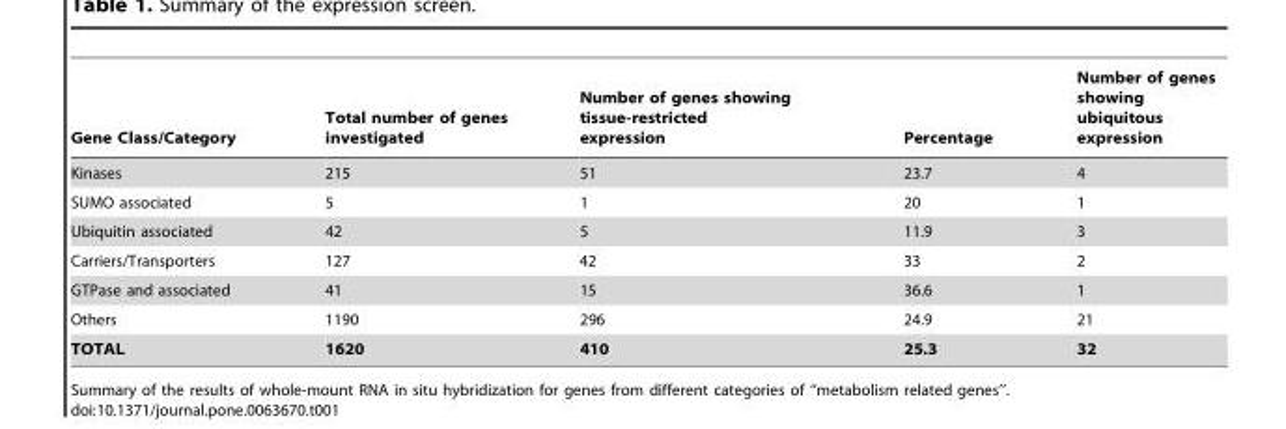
<table><thead><tr><td>Gene Class/Category</td><td>Total number of genes investigated</td><td>Number of genes showing tissue-restricted expression</td><td>Percentage</td><td>Number of genes showing ubiquitous expression</td></tr></thead><tbody><tr><td>Kinases</td><td>215</td><td>51</td><td>23.7</td><td>4</td></tr><tr><td>SUMO associated</td><td>5</td><td>1</td><td>20</td><td>1</td></tr><tr><td>Ubiquitin associated</td><td>42</td><td>5</td><td>11.9</td><td>3</td></tr><tr><td>Carriers/Transporters</td><td>127</td><td>42</td><td>33</td><td>2</td></tr><tr><td>GTPase and associated</td><td>41</td><td>15</td><td>36.6</td><td>1</td></tr><tr><td>Others</td><td>1190</td><td>296</td><td>24.9</td><td>21</td></tr><tr><td>TOTAL</td><td>1620</td><td>410</td><td>25.3</td><td>32</td></tr></tbody></table>